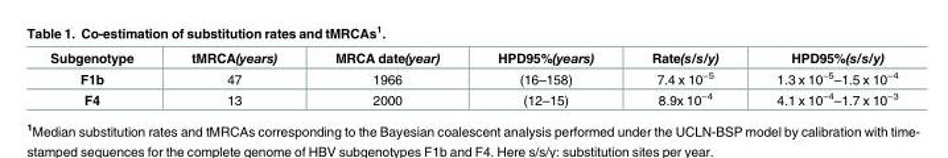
<table><thead><tr><td>Subgenotype</td><td>tMRCA(years)</td><td>MRCA date(year)</td><td>HPD95%(years)</td><td>Rate(s/s/y)</td><td>HPD95%(s/s/y)</td></tr></thead><tbody><tr><td>F1b</td><td>47</td><td>1966</td><td>(16–158)</td><td>7.4 x 10<sup>−5</sup></td><td>1.3 x 10<sup>−5</sup>–1.5 x 10<sup>−4</sup></td></tr><tr><td>F4</td><td>13</td><td>2000</td><td>(12–15)</td><td>8.9x 10<sup>−4</sup></td><td>4.1 x 10<sup>−4</sup>–1.7 x 10<sup>−3</sup></td></tr></tbody></table>